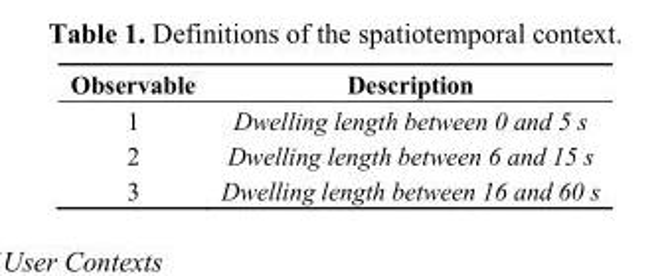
<table><thead><tr><td>Observable</td><td>Description</td></tr></thead><tbody><tr><td>1</td><td>Dwelling length between 0 and 5 s</td></tr><tr><td>2</td><td>Dwelling length between 6 and 15 s</td></tr><tr><td>3</td><td>Dwelling length between 16 and 60 s</td></tr></tbody></table>